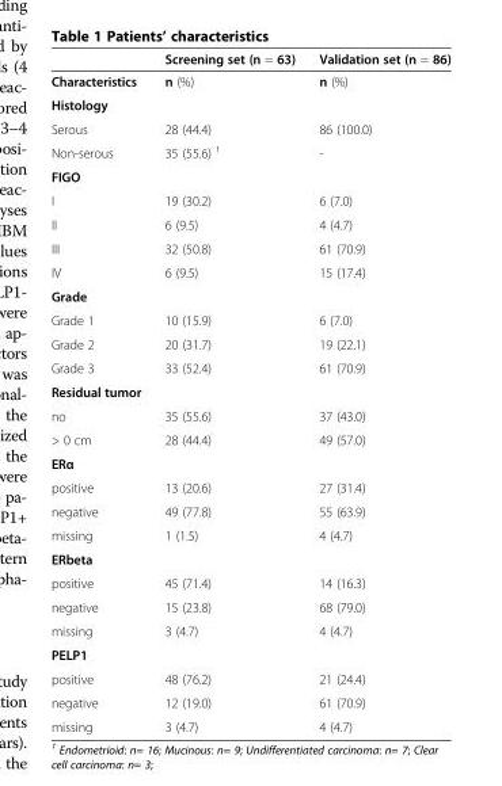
<table><thead><tr><td></td><td>Screening set (n = 63)</td><td>Validation set (n = 86)</td></tr></thead><tbody><tr><td>Characteristics</td><td>n (%)</td><td>n (%)</td></tr><tr><td colspan="3">Histology</td></tr><tr><td>Serous</td><td>28 (44.4)</td><td>86 (100.0)</td></tr><tr><td>Non-serous</td><td>35 (55.6) <sup>1</sup></td><td>-</td></tr><tr><td colspan="3">FIGO</td></tr><tr><td>I</td><td>19 (30.2)</td><td>6 (7.0)</td></tr><tr><td>II</td><td>6 (9.5)</td><td>4 (4.7)</td></tr><tr><td>III</td><td>32 (50.8)</td><td>61 (70.9)</td></tr><tr><td>IV</td><td>6 (9.5)</td><td>15 (17.4)</td></tr><tr><td colspan="3">Grade</td></tr><tr><td>Grade 1</td><td>10 (15.9)</td><td>6 (7.0)</td></tr><tr><td>Grade 2</td><td>20 (31.7)</td><td>19 (22.1)</td></tr><tr><td>Grade 3</td><td>33 (52.4)</td><td>61 (70.9)</td></tr><tr><td colspan="3">Residual tumor</td></tr><tr><td>no</td><td>35 (55.6)</td><td>37 (43.0)</td></tr><tr><td>&gt; 0 cm</td><td>28 (44.4)</td><td>49 (57.0)</td></tr><tr><td colspan="3">ERα</td></tr><tr><td>positive</td><td>13 (20.6)</td><td>27 (31.4)</td></tr><tr><td>negative</td><td>49 (77.8)</td><td>55 (63.9)</td></tr><tr><td>missing</td><td>1 (1.5)</td><td>4 (4.7)</td></tr><tr><td colspan="3">ERbeta</td></tr><tr><td>positive</td><td>45 (71.4)</td><td>14 (16.3)</td></tr><tr><td>negative</td><td>15 (23.8)</td><td>68 (79.0)</td></tr><tr><td>missing</td><td>3 (4.7)</td><td>4 (4.7)</td></tr><tr><td colspan="3">PELP1</td></tr><tr><td>positive</td><td>48 (76.2)</td><td>21 (24.4)</td></tr><tr><td>negative</td><td>12 (19.0)</td><td>61 (70.9)</td></tr><tr><td>missing</td><td>3 (4.7)</td><td>4 (4.7)</td></tr></tbody></table>